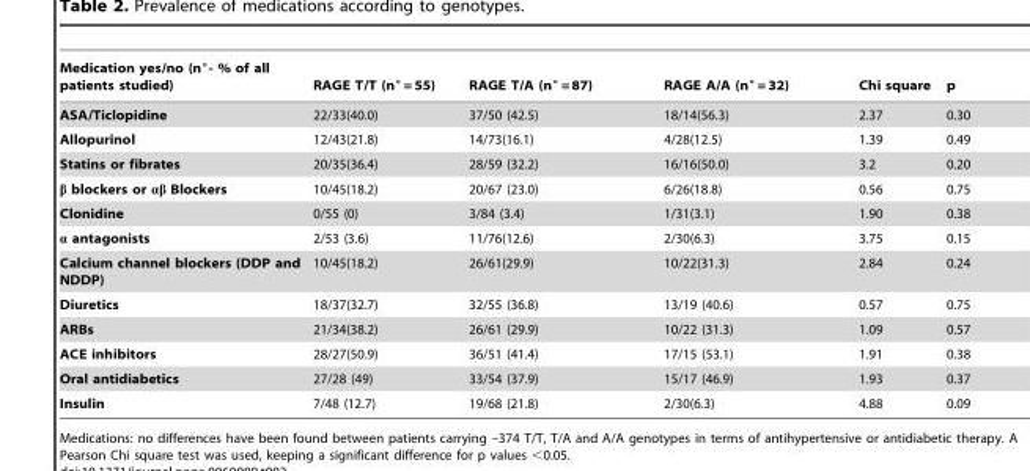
<table><thead><tr><td>Medication yes/no (n°- % of all patients studied)</td><td>RAGE T/T (n° = 55)</td><td>RAGE T/A (n° = 87)</td><td>RAGE A/A (n° = 32)</td><td>Chi square</td><td>p</td></tr></thead><tbody><tr><td>ASA/Ticlopidine</td><td>22/33(40.0)</td><td>37/50 (42.5)</td><td>18/14(56.3)</td><td>2.37</td><td>0.30</td></tr><tr><td>Allopurinol</td><td>12/43(21.8)</td><td>14/73(16.1)</td><td>4/28(12.5)</td><td>1.39</td><td>0.49</td></tr><tr><td>Statins or fibrates</td><td>20/35(36.4)</td><td>28/59 (32.2)</td><td>16/16(50.0)</td><td>3.2</td><td>0.20</td></tr><tr><td>β blockers or αβ Blockers</td><td>10/45(18.2)</td><td>20/67 (23.0)</td><td>6/26(18.8)</td><td>0.56</td><td>0.75</td></tr><tr><td>Clonidine</td><td>0/55 (0)</td><td>3/84 (3.4)</td><td>1/31(3.1)</td><td>1.90</td><td>0.38</td></tr><tr><td>α antagonists</td><td>2/53 (3.6)</td><td>11/76(12.6)</td><td>2/30(6.3)</td><td>3.75</td><td>0.15</td></tr><tr><td>Calcium channel blockers (DDP and NDDP)</td><td>10/45(18.2)</td><td>26/61(29.9)</td><td>10/22(31.3)</td><td>2.84</td><td>0.24</td></tr><tr><td>Diuretics</td><td>18/37(32.7)</td><td>32/55 (36.8)</td><td>13/19 (40.6)</td><td>0.57</td><td>0.75</td></tr><tr><td>ARBs</td><td>21/34(38.2)</td><td>26/61 (29.9)</td><td>10/22 (31.3)</td><td>1.09</td><td>0.57</td></tr><tr><td>ACE inhibitors</td><td>28/27(50.9)</td><td>36/51 (41.4)</td><td>17/15 (53.1)</td><td>1.91</td><td>0.38</td></tr><tr><td>Oral antidiabetics</td><td>27/28 (49)</td><td>33/54 (37.9)</td><td>15/17 (46.9)</td><td>1.93</td><td>0.37</td></tr><tr><td>Insulin</td><td>7/48 (12.7)</td><td>19/68 (21.8)</td><td>2/30(6.3)</td><td>4.88</td><td>0.09</td></tr></tbody></table>